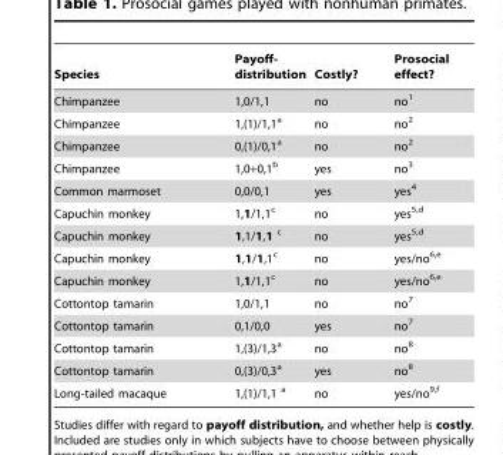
<table><thead><tr><td>Species</td><td>Payoff- distribution</td><td>Costly?</td><td>Prosocial effect?</td></tr></thead><tbody><tr><td>Chimpanzee</td><td>1,0/1,1</td><td>no</td><td>no<sup>1</sup></td></tr><tr><td>Chimpanzee</td><td>1,(1)/1,1<sup>a</sup></td><td>no</td><td>no<sup>2</sup></td></tr><tr><td>Chimpanzee</td><td>0,(1)/0,1<sup>a</sup></td><td>no</td><td>no<sup>2</sup></td></tr><tr><td>Chimpanzee</td><td>1,0+0,1<sup>b</sup></td><td>yes</td><td>no<sup>3</sup></td></tr><tr><td>Common marmoset</td><td>0,0/0,1</td><td>yes</td><td>yes<sup>4</sup></td></tr><tr><td>Capuchin monkey</td><td>1,1/1,1<sup>c</sup></td><td>no</td><td>yes<sup>5,</sup>d</td></tr><tr><td>Capuchin monkey</td><td>1,1/1,1 c</td><td>no</td><td>yes<sup>5,</sup>d</td></tr><tr><td>Capuchin monkey</td><td>1,1/1,1<sup>c</sup></td><td>no</td><td>yes/no<sup>6,</sup>e</td></tr><tr><td>Capuchin monkey</td><td>1,1/1,1<sup>c</sup></td><td>no</td><td>yes/no<sup>6,</sup>e</td></tr><tr><td>Cottontop tamarin</td><td>1,0/1,1</td><td>no</td><td>no<sup>7</sup></td></tr><tr><td>Cottontop tamarin</td><td>0,1/0,0</td><td>yes</td><td>no<sup>7</sup></td></tr><tr><td>Cottontop tamarin</td><td>1,(3)/1,3<sup>a</sup></td><td>no</td><td>no<sup>8</sup></td></tr><tr><td>Cottontop tamarin</td><td>0,(3)/0,3<sup>a</sup></td><td>yes</td><td>no<sup>8</sup></td></tr><tr><td>Long-tailed macaque</td><td>1,(1)/1,1 a</td><td>no</td><td>yes/no<sup>9,</sup>f</td></tr></tbody></table>